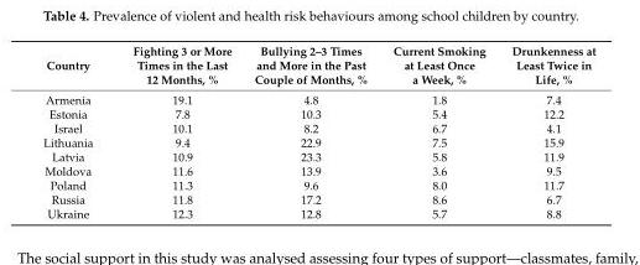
<table><thead><tr><td>Country</td><td>Fighting 3 or More Times in the Last 12 Months, %</td><td>Bullying 2–3 Times and More in the Past Couple of Months, %</td><td>Current Smoking at Least Once a Week, %</td><td>Drunkenness at Least Twice in Life, %</td></tr></thead><tbody><tr><td>Armenia</td><td>19.1</td><td>4.8</td><td>1.8</td><td>7.4</td></tr><tr><td>Estonia</td><td>7.8</td><td>10.3</td><td>5.4</td><td>12.2</td></tr><tr><td>Israel</td><td>10.1</td><td>8.2</td><td>6.7</td><td>4.1</td></tr><tr><td>Lithuania</td><td>9.4</td><td>22.9</td><td>7.5</td><td>15.9</td></tr><tr><td>Latvia</td><td>10.9</td><td>23.3</td><td>5.8</td><td>11.9</td></tr><tr><td>Moldova</td><td>11.6</td><td>13.9</td><td>3.6</td><td>9.5</td></tr><tr><td>Poland</td><td>11.3</td><td>9.6</td><td>8.0</td><td>11.7</td></tr><tr><td>Russia</td><td>11.8</td><td>17.2</td><td>8.6</td><td>6.7</td></tr><tr><td>Ukraine</td><td>12.3</td><td>12.8</td><td>5.7</td><td>8.8</td></tr></tbody></table>